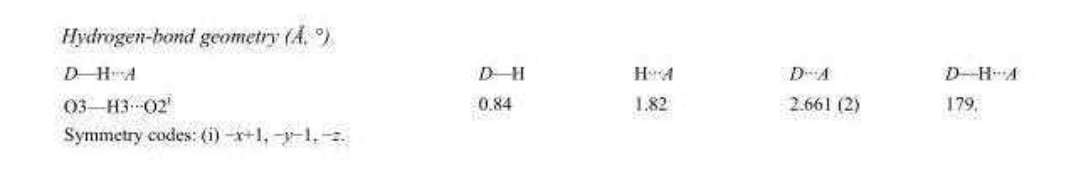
<table><tbody><tr><td>D—H···A</td><td>D—H</td><td>H···A</td><td>D···A</td><td>D—H···A</td></tr><tr><td>O3—H3···O2<sup>i</sup></td><td>0.84</td><td>1.82</td><td>2.661 (2)</td><td>179.</td></tr></tbody></table>